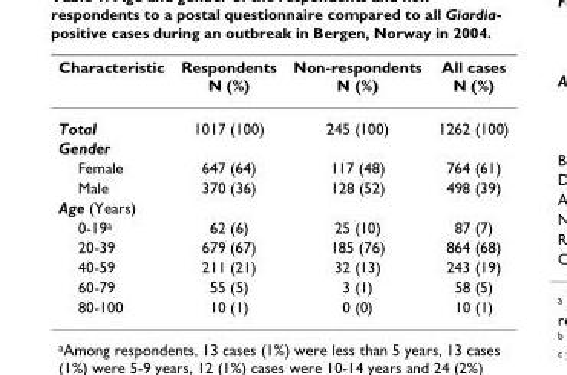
<table><thead><tr><td>Characteristic</td><td>Respondents N (%)</td><td>Non-respondents N (%)</td><td>All cases N (%)</td></tr></thead><tbody><tr><td>Total</td><td>1017 (100)</td><td>245 (100)</td><td>1262 (100)</td></tr><tr><td colspan="4">Gender</td></tr><tr><td>Female</td><td>647 (64)</td><td>117 (48)</td><td>764 (61)</td></tr><tr><td>Male</td><td>370 (36)</td><td>128 (52)</td><td>498 (39)</td></tr><tr><td colspan="4">Age (Years)</td></tr><tr><td>0-19<sup>a</sup></td><td>62 (6)</td><td>25 (10)</td><td>87 (7)</td></tr><tr><td>20-39</td><td>679 (67)</td><td>185 (76)</td><td>864 (68)</td></tr><tr><td>40-59</td><td>211 (21)</td><td>32 (13)</td><td>243 (19)</td></tr><tr><td>60-79</td><td>55 (5)</td><td>3 (1)</td><td>58 (5)</td></tr><tr><td>80-100</td><td>10 (1)</td><td>0 (0)</td><td>10 (1)</td></tr></tbody></table>